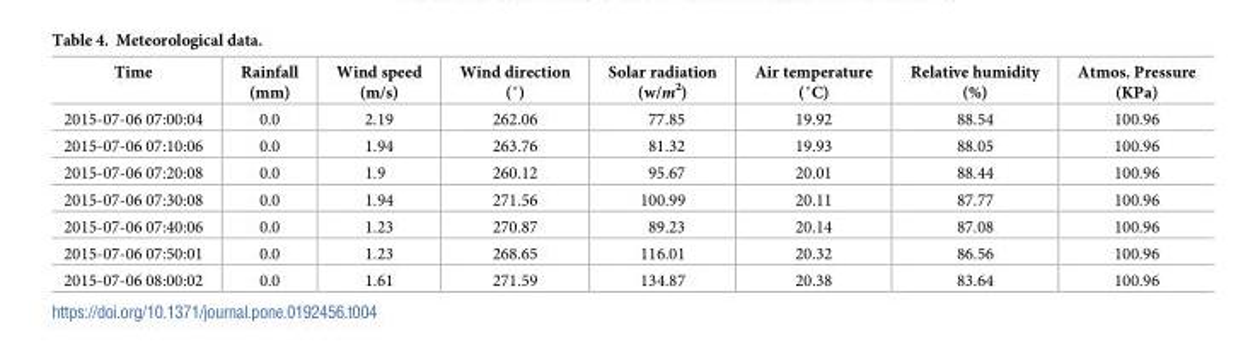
<table><thead><tr><td>Time</td><td>Rainfall (mm)</td><td>Wind speed (m/s)</td><td>Wind direction (˚)</td><td>Solar radiation (w/m<sup>2</sup>)</td><td>Air temperature (˚C)</td><td>Relative humidity (%)</td><td>Atmos. Pressure (KPa)</td></tr></thead><tbody><tr><td>2015-07-06 07:00:04</td><td>0.0</td><td>2.19</td><td>262.06</td><td>77.85</td><td>19.92</td><td>88.54</td><td>100.96</td></tr><tr><td>2015-07-06 07:10:06</td><td>0.0</td><td>1.94</td><td>263.76</td><td>81.32</td><td>19.93</td><td>88.05</td><td>100.96</td></tr><tr><td>2015-07-06 07:20:08</td><td>0.0</td><td>1.9</td><td>260.12</td><td>95.67</td><td>20.01</td><td>88.44</td><td>100.96</td></tr><tr><td>2015-07-06 07:30:08</td><td>0.0</td><td>1.94</td><td>271.56</td><td>100.99</td><td>20.11</td><td>87.77</td><td>100.96</td></tr><tr><td>2015-07-06 07:40:06</td><td>0.0</td><td>1.23</td><td>270.87</td><td>89.23</td><td>20.14</td><td>87.08</td><td>100.96</td></tr><tr><td>2015-07-06 07:50:01</td><td>0.0</td><td>1.23</td><td>268.65</td><td>116.01</td><td>20.32</td><td>86.56</td><td>100.96</td></tr><tr><td>2015-07-06 08:00:02</td><td>0.0</td><td>1.61</td><td>271.59</td><td>134.87</td><td>20.38</td><td>83.64</td><td>100.96</td></tr></tbody></table>